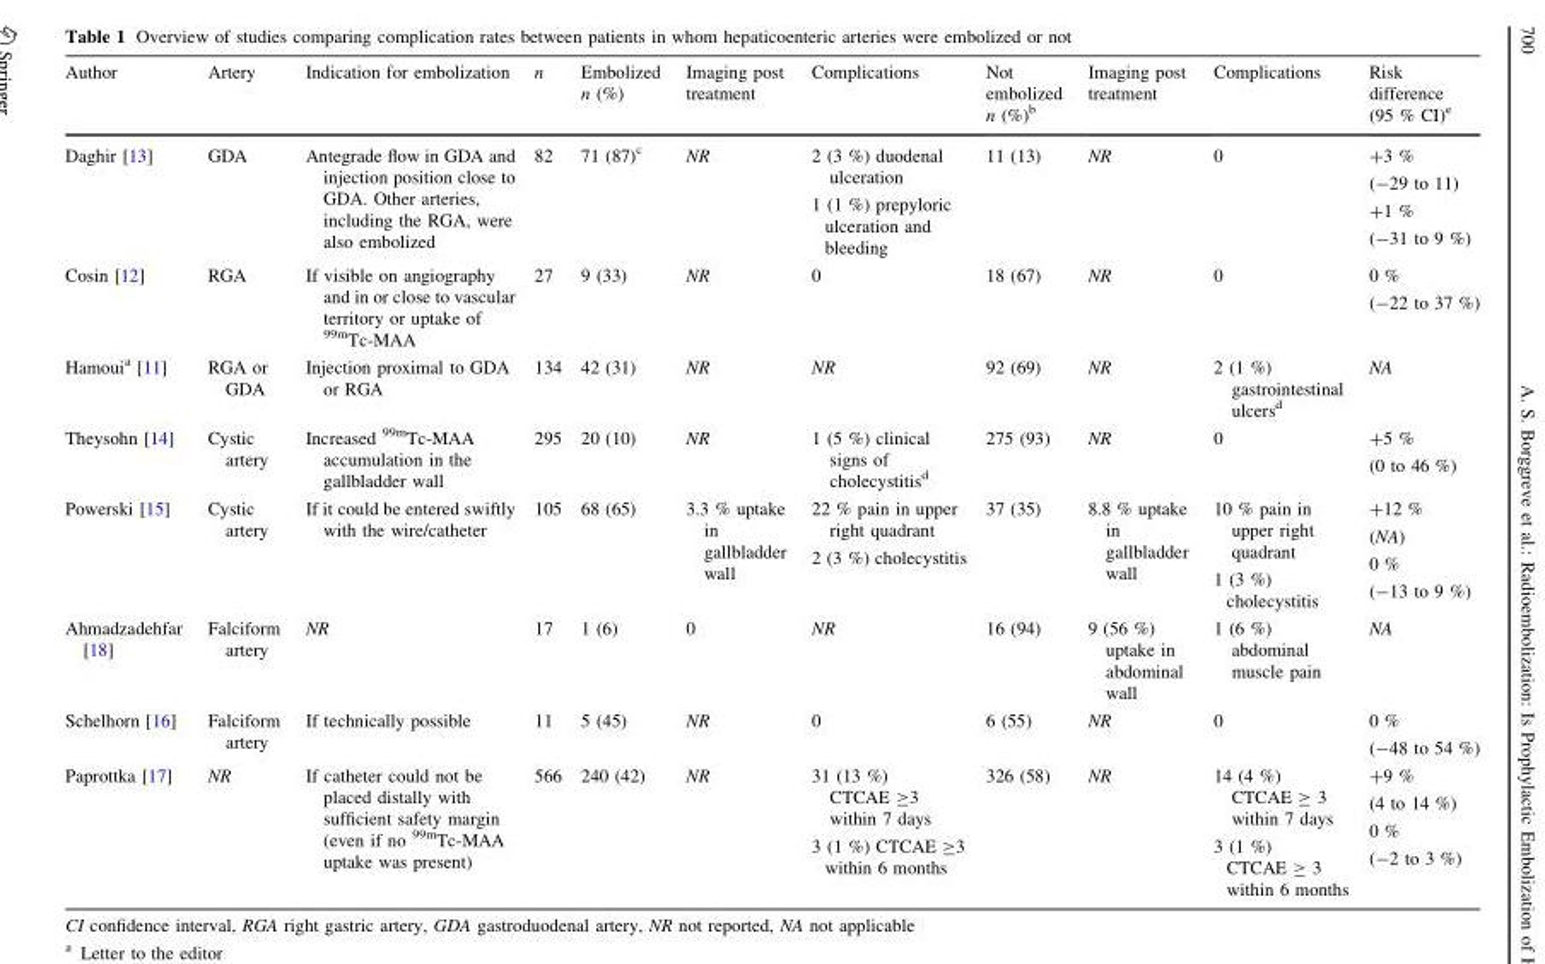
<table><thead><tr><td>Author</td><td>Artery</td><td>Indication for embolization</td><td>n</td><td>Embolized n (%)</td><td>Imaging post treatment</td><td>Complications</td><td>Not embolized n (%)<sup>b</sup></td><td>Imaging post treatment</td><td>Complications</td><td>Risk difference (95 % CI)<sup>e</sup></td></tr></thead><tbody><tr><td>Daghir [13]</td><td>GDA</td><td>Antegrade flow in GDA and injection position close to GDA. Other arteries, including the RGA, were also embolized</td><td>82</td><td>71 (87)<sup>c</sup></td><td>NR</td><td>2 (3 %) duodenal ulceration 1 (1 %) prepyloric ulceration and bleeding</td><td>11 (13)</td><td>NR</td><td>0</td><td>+3 % (-29 to 11) +1 % (-31 to 9 %)</td></tr><tr><td>Cosin [12]</td><td>RGA</td><td>If visible on angiography and in or close to vascular territory or uptake of <sup>99m</sup>Tc-MAA</td><td>27</td><td>9 (33)</td><td>NR</td><td>0</td><td>18 (67)</td><td>NR</td><td>0</td><td>0 % (-22 to 37 %)</td></tr><tr><td>Hamoui<sup>a</sup> [11]</td><td>RGA or GDA</td><td>Injection proximal to GDA or RGA</td><td>134</td><td>42 (31)</td><td>NR</td><td>NR</td><td>92 (69)</td><td>NR</td><td>2 (1 %) gastrointestinal ulcers<sup>d</sup></td><td>NA</td></tr><tr><td>Theysohn [14]</td><td>Cystic artery</td><td>Increased <sup>99m</sup>Tc-MAA accumulation in the gallbladder wall</td><td>295</td><td>20 (10)</td><td>NR</td><td>1 (5 %) clinical signs of cholecystitis<sup>d</sup></td><td>275 (93)</td><td>NR</td><td>0</td><td>+5 % (0 to 46 %)</td></tr><tr><td>Powerski [15]</td><td>Cystic artery</td><td>If it could be entered swiftly with the wire/catheter</td><td>105</td><td>68 (65)</td><td>3.3 % uptake in gallbladder wall</td><td>22 % pain in upper right quadrant 2 (3 %) cholecystitis</td><td>37 (35)</td><td>8.8 % uptake in gallbladder wall</td><td>10 % pain in upper right quadrant 1 (3 %) cholecystitis</td><td>+12 % (NA) 0 % (-13 to 9 %)</td></tr><tr><td>Ahmadzadehfar [18]</td><td>Falciform artery</td><td>NR</td><td>17</td><td>1 (6)</td><td>0</td><td>NR</td><td>16 (94)</td><td>9 (56 %) uptake in abdominal wall</td><td>1 (6 %) abdominal muscle pain</td><td>NA</td></tr><tr><td>Schelhorn [16]</td><td>Falciform artery</td><td>If technically possible</td><td>11</td><td>5 (45)</td><td>NR</td><td>0</td><td>6 (55)</td><td>NR</td><td>0</td><td>0 % (-48 to 54 %)</td></tr><tr><td>Paprottka [17]</td><td>NR</td><td>If catheter could not be placed distally with sufficient safety margin (even if no <sup>99m</sup>Tc-MAA uptake was present)</td><td>566</td><td>240 (42)</td><td>NR</td><td>31 (13 %) CTCAE ≥3 within 7 days 3 (1 %) CTCAE ≥3 within 6 months</td><td>326 (58)</td><td>NR</td><td>14 (4 %) CTCAE ≥ 3 within 7 days 3 (1 %) CTCAE ≥ 3 within 6 months</td><td>+9 % (4 to 14 %) 0 % (-2 to 3 %)</td></tr></tbody></table>